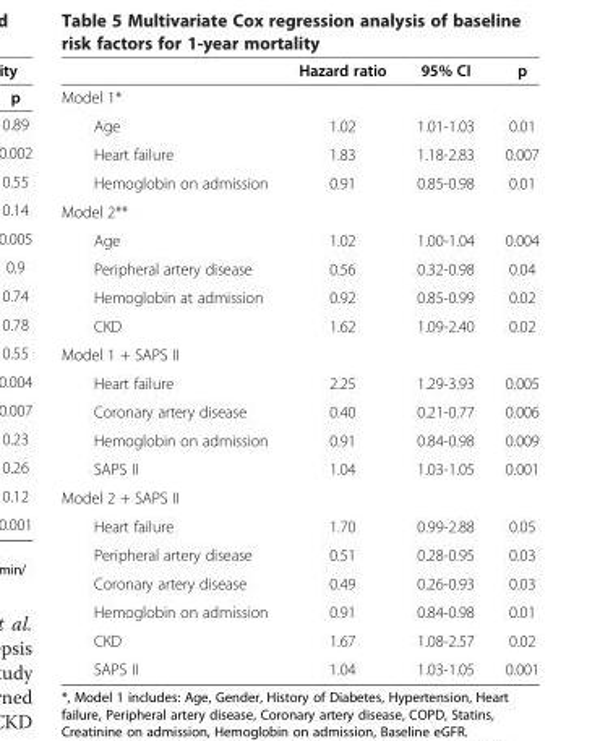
<table><thead><tr><td></td><td>Hazard ratio</td><td>95% CI</td><td>p</td></tr></thead><tbody><tr><td colspan="4">Model 1*</td></tr><tr><td>Age</td><td>1.02</td><td>1.01-1.03</td><td>0.01</td></tr><tr><td>Heart failure</td><td>1.83</td><td>1.18-2.83</td><td>0.007</td></tr><tr><td>Hemoglobin on admission</td><td>0.91</td><td>0.85-0.98</td><td>0.01</td></tr><tr><td colspan="4">Model 2**</td></tr><tr><td>Age</td><td>1.02</td><td>1.00-1.04</td><td>0.004</td></tr><tr><td>Peripheral artery disease</td><td>0.56</td><td>0.32-0.98</td><td>0.04</td></tr><tr><td>Hemoglobin at admission</td><td>0.92</td><td>0.85-0.99</td><td>0.02</td></tr><tr><td>CKD</td><td>1.62</td><td>1.09-2.40</td><td>0.02</td></tr><tr><td colspan="4">Model 1 + SAPS II</td></tr><tr><td>Heart failure</td><td>2.25</td><td>1.29-3.93</td><td>0.005</td></tr><tr><td>Coronary artery disease</td><td>0.40</td><td>0.21-0.77</td><td>0.006</td></tr><tr><td>Hemoglobin on admission</td><td>0.91</td><td>0.84-0.98</td><td>0.009</td></tr><tr><td>SAPS II</td><td>1.04</td><td>1.03-1.05</td><td>0.001</td></tr><tr><td colspan="4">Model 2 + SAPS II</td></tr><tr><td>Heart failure</td><td>1.70</td><td>0.99-2.88</td><td>0.05</td></tr><tr><td>Peripheral artery disease</td><td>0.51</td><td>0.28-0.95</td><td>0.03</td></tr><tr><td>Coronary artery disease</td><td>0.49</td><td>0.26-0.93</td><td>0.03</td></tr><tr><td>Hemoglobin on admission</td><td>0.91</td><td>0.84-0.98</td><td>0.01</td></tr><tr><td>CKD</td><td>1.67</td><td>1.08-2.57</td><td>0.02</td></tr><tr><td>SAPS II</td><td>1.04</td><td>1.03-1.05</td><td>0.001</td></tr></tbody></table>